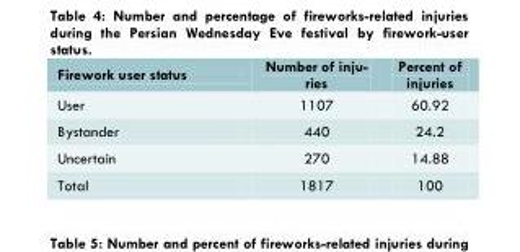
<table><thead><tr><td>Firework user status</td><td>Number of inju- ries</td><td>Percent of injuries</td></tr></thead><tbody><tr><td>User</td><td>1107</td><td>60.92</td></tr><tr><td>Bystander</td><td>440</td><td>24.2</td></tr><tr><td>Uncertain</td><td>270</td><td>14.88</td></tr><tr><td>Total</td><td>1817</td><td>100</td></tr></tbody></table>